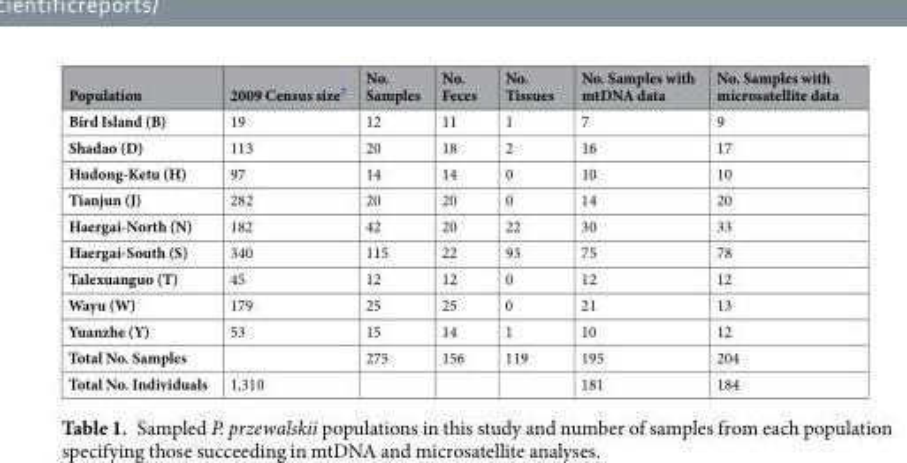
<table><thead><tr><td>Population</td><td>2009 Census size<sup>7</sup></td><td>No. Samples</td><td>No. Feces</td><td>No. Tissues</td><td>No. Samples with mtDNA data</td><td>No. Samples with microsatellite data</td></tr></thead><tbody><tr><td>Bird Island (B)</td><td>19</td><td>12</td><td>11</td><td>1</td><td>7</td><td>9</td></tr><tr><td>Shadao (D)</td><td>113</td><td>20</td><td>18</td><td>2</td><td>16</td><td>17</td></tr><tr><td>Hudong-Ketu (H)</td><td>97</td><td>14</td><td>14</td><td>0</td><td>10</td><td>10</td></tr><tr><td>Tianjun (J)</td><td>282</td><td>20</td><td>20</td><td>0</td><td>14</td><td>20</td></tr><tr><td>Haergai-North (N)</td><td>182</td><td>42</td><td>20</td><td>22</td><td>30</td><td>33</td></tr><tr><td>Haergai-South (S)</td><td>340</td><td>115</td><td>22</td><td>93</td><td>75</td><td>78</td></tr><tr><td>Talexuanguo (T)</td><td>45</td><td>12</td><td>12</td><td>0</td><td>12</td><td>12</td></tr><tr><td>Wayu (W)</td><td>179</td><td>25</td><td>25</td><td>0</td><td>21</td><td>13</td></tr><tr><td>Yuanzhe (Y)</td><td>53</td><td>15</td><td>14</td><td>1</td><td>10</td><td>12</td></tr><tr><td>Total No. Samples</td><td></td><td>275</td><td>156</td><td>119</td><td>195</td><td>204</td></tr><tr><td>Total No. Individuals</td><td>1,310</td><td></td><td></td><td></td><td>181</td><td>184</td></tr></tbody></table>